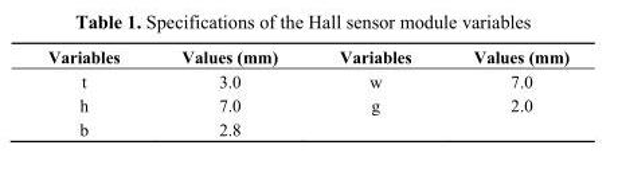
<table><thead><tr><td>Variables</td><td>Values (mm)</td><td>Variables</td><td>Values (mm)</td></tr></thead><tbody><tr><td>t</td><td>3.0</td><td>w</td><td>7.0</td></tr><tr><td>h</td><td>7.0</td><td>g</td><td>2.0</td></tr><tr><td>b</td><td>2.8</td><td></td><td></td></tr></tbody></table>